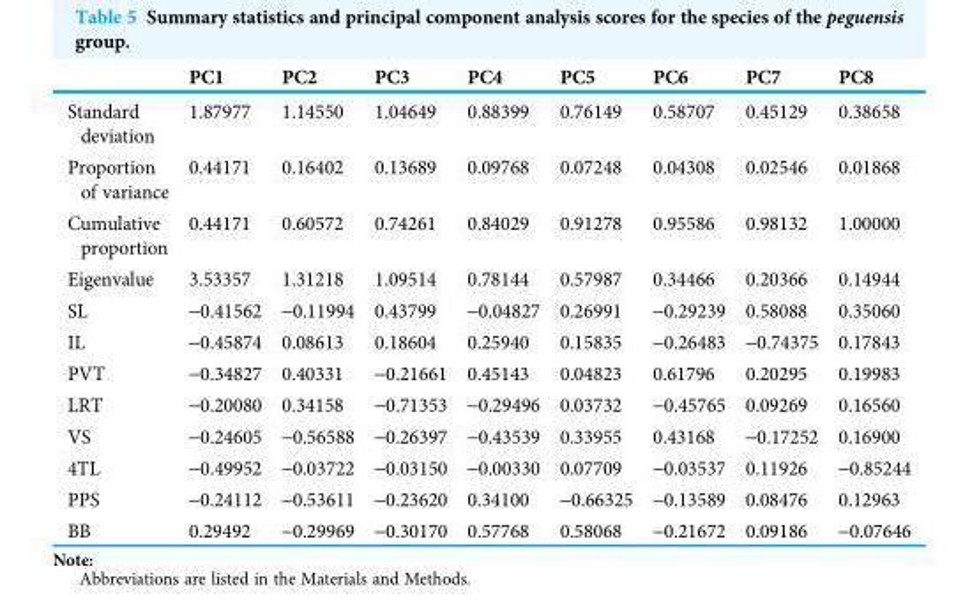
<table><thead><tr><td></td><td>PC1</td><td>PC2</td><td>PC3</td><td>PC4</td><td>PC5</td><td>PC6</td><td>PC7</td><td>PC8</td></tr></thead><tbody><tr><td>Standard deviation</td><td>1.87977</td><td>1.14550</td><td>1.04649</td><td>0.88399</td><td>0.76149</td><td>0.58707</td><td>0.45129</td><td>0.38658</td></tr><tr><td>Proportion of variance</td><td>0.44171</td><td>0.16402</td><td>0.13689</td><td>0.09768</td><td>0.07248</td><td>0.04308</td><td>0.02546</td><td>0.01868</td></tr><tr><td>Cumulative proportion</td><td>0.44171</td><td>0.60572</td><td>0.74261</td><td>0.84029</td><td>0.91278</td><td>0.95586</td><td>0.98132</td><td>1.00000</td></tr><tr><td>Eigenvalue</td><td>3.53357</td><td>1.31218</td><td>1.09514</td><td>0.78144</td><td>0.57987</td><td>0.34466</td><td>0.20366</td><td>0.14944</td></tr><tr><td>SL</td><td>-0.41562</td><td>-0.11994</td><td>0.43799</td><td>-0.04827</td><td>0.26991</td><td>-0.29239</td><td>0.58088</td><td>0.35060</td></tr><tr><td>IL</td><td>-0.45874</td><td>0.08613</td><td>0.18604</td><td>0.25940</td><td>0.15835</td><td>-0.26483</td><td>-0.74375</td><td>0.17843</td></tr><tr><td>PVT</td><td>-0.34827</td><td>0.40331</td><td>-0.21661</td><td>0.45143</td><td>0.04823</td><td>0.61796</td><td>0.20295</td><td>0.19983</td></tr><tr><td>LRT</td><td>-0.20080</td><td>0.34158</td><td>-0.71353</td><td>-0.29496</td><td>0.03732</td><td>-0.45765</td><td>0.09269</td><td>0.16560</td></tr><tr><td>VS</td><td>-0.24605</td><td>-0.56588</td><td>-0.26397</td><td>-0.43539</td><td>0.33955</td><td>0.43168</td><td>-0.17252</td><td>0.16900</td></tr><tr><td>4TL</td><td>-0.49952</td><td>-0.03722</td><td>-0.03150</td><td>-0.00330</td><td>0.07709</td><td>-0.03537</td><td>0.11926</td><td>-0.85244</td></tr><tr><td>PPS</td><td>-0.24112</td><td>-0.53611</td><td>-0.23620</td><td>0.34100</td><td>-0.66325</td><td>-0.13589</td><td>0.08476</td><td>0.12963</td></tr><tr><td>BB</td><td>0.29492</td><td>-0.29969</td><td>-0.30170</td><td>0.57768</td><td>0.58068</td><td>-0.21672</td><td>0.09186</td><td>-0.07646</td></tr></tbody></table>